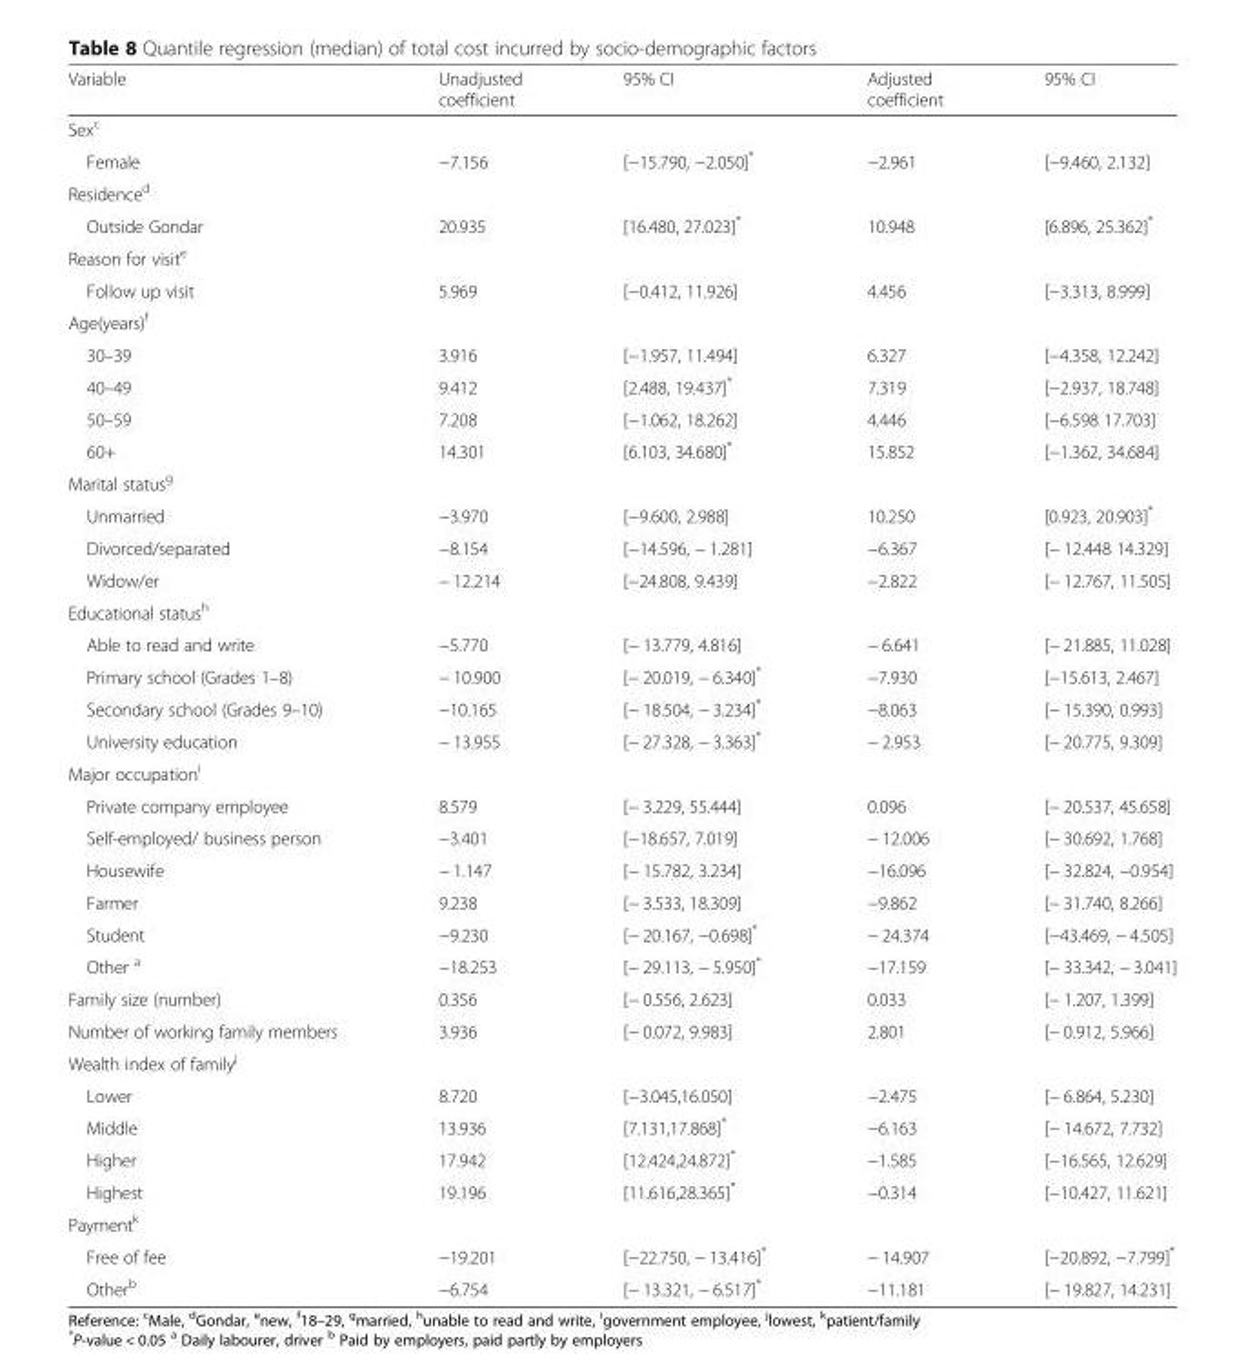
<table><thead><tr><td>Variable</td><td>Unadjusted coefficient</td><td>95% CI</td><td>Adjusted coefficient</td><td>95% CI</td></tr></thead><tbody><tr><td colspan="5">Sex<sup>c</sup></td></tr><tr><td>Female</td><td>−7.156</td><td>[−15.790, −2.050]*</td><td>−2.961</td><td>[−9.460, 2.132]</td></tr><tr><td colspan="5">Residence<sup>d</sup></td></tr><tr><td>Outside Gondar</td><td>20.935</td><td>[16.480, 27.023]*</td><td>10.948</td><td>[6.896, 25.362]*</td></tr><tr><td colspan="5">Reason for visit<sup>e</sup></td></tr><tr><td>Follow up visit</td><td>5.969</td><td>[−0.412, 11.926]</td><td>4.456</td><td>[−3.313, 8.999]</td></tr><tr><td colspan="5">Age(years)<sup>f</sup></td></tr><tr><td>30–39</td><td>3.916</td><td>[−1.957, 11.494]</td><td>6.327</td><td>[−4.358, 12.242]</td></tr><tr><td>40–49</td><td>9.412</td><td>[2.488, 19.437]*</td><td>7.319</td><td>[−2.937, 18.748]</td></tr><tr><td>50–59</td><td>7.208</td><td>[−1.062, 18.262]</td><td>4.446</td><td>[−6.598 17.703]</td></tr><tr><td>60+</td><td>14.301</td><td>[6.103, 34.680]*</td><td>15.852</td><td>[−1.362, 34.684]</td></tr><tr><td colspan="5">Marital status<sup>g</sup></td></tr><tr><td>Unmarried</td><td>−3.970</td><td>[−9.600, 2.988]</td><td>10.250</td><td>[0.923, 20.903]*</td></tr><tr><td>Divorced/separated</td><td>−8.154</td><td>[−14.596, − 1.281]</td><td>−6.367</td><td>[− 12.448 14.329]</td></tr><tr><td>Widow/er</td><td>− 12.214</td><td>[−24.808, 9.439]</td><td>−2.822</td><td>[− 12.767, 11.505]</td></tr><tr><td colspan="5">Educational status<sup>h</sup></td></tr><tr><td>Able to read and write</td><td>−5.770</td><td>[− 13.779, 4.816]</td><td>− 6.641</td><td>[− 21.885, 11.028]</td></tr><tr><td>Primary school (Grades 1–8)</td><td>− 10.900</td><td>[− 20.019, − 6.340]*</td><td>−7.930</td><td>[−15.613, 2.467]</td></tr><tr><td>Secondary school (Grades 9–10)</td><td>−10.165</td><td>[− 18.504, − 3.234]*</td><td>−8.063</td><td>[− 15.390, 0.993]</td></tr><tr><td>University education</td><td>− 13.955</td><td>[− 27.328, − 3.363]*</td><td>− 2.953</td><td>[− 20.775, 9.309]</td></tr><tr><td colspan="5">Major occupation<sup>i</sup></td></tr><tr><td>Private company employee</td><td>8.579</td><td>[− 3.229, 55.444]</td><td>0.096</td><td>[− 20.537, 45.658]</td></tr><tr><td>Self-employed/ business person</td><td>−3.401</td><td>[−18.657, 7.019]</td><td>− 12.006</td><td>[− 30.692, 1.768]</td></tr><tr><td>Housewife</td><td>− 1.147</td><td>[− 15.782, 3.234]</td><td>−16.096</td><td>[− 32.824, −0.954]</td></tr><tr><td>Farmer</td><td>9.238</td><td>[− 3.533, 18.309]</td><td>−9.862</td><td>[− 31.740, 8.266]</td></tr><tr><td>Student</td><td>−9.230</td><td>[− 20.167, −0.698]*</td><td>− 24.374</td><td>[−43.469, − 4.505]</td></tr><tr><td>Other <sup>a</sup></td><td>−18.253</td><td>[− 29.113, − 5.950]*</td><td>−17.159</td><td>[− 33.342, − 3.041]</td></tr><tr><td>Family size (number)</td><td>0.356</td><td>[− 0.556, 2.623]</td><td>0.033</td><td>[− 1.207, 1.399]</td></tr><tr><td>Number of working family members</td><td>3.936</td><td>[− 0.072, 9.983]</td><td>2.801</td><td>[− 0.912, 5.966]</td></tr><tr><td colspan="5">Wealth index of family<sup>j</sup></td></tr><tr><td>Lower</td><td>8.720</td><td>[−3.045,16.050]</td><td>−2.475</td><td>[− 6.864, 5.230]</td></tr><tr><td>Middle</td><td>13.936</td><td>[7.131,17.868]*</td><td>−6.163</td><td>[− 14.672, 7.732]</td></tr><tr><td>Higher</td><td>17.942</td><td>[12.424,24.872]*</td><td>−1.585</td><td>[−16.565, 12.629]</td></tr><tr><td>Highest</td><td>19.196</td><td>[11.616,28.365]*</td><td>−0.314</td><td>[−10.427, 11.621]</td></tr><tr><td colspan="5">Payment<sup>k</sup></td></tr><tr><td>Free of fee</td><td>−19.201</td><td>[−22.750, − 13.416]*</td><td>− 14.907</td><td>[−20.892, −7.799]*</td></tr><tr><td>Other<sup>b</sup></td><td>−6.754</td><td>[− 13.321, − 6.517]*</td><td>−11.181</td><td>[− 19.827, 14.231]</td></tr></tbody></table>